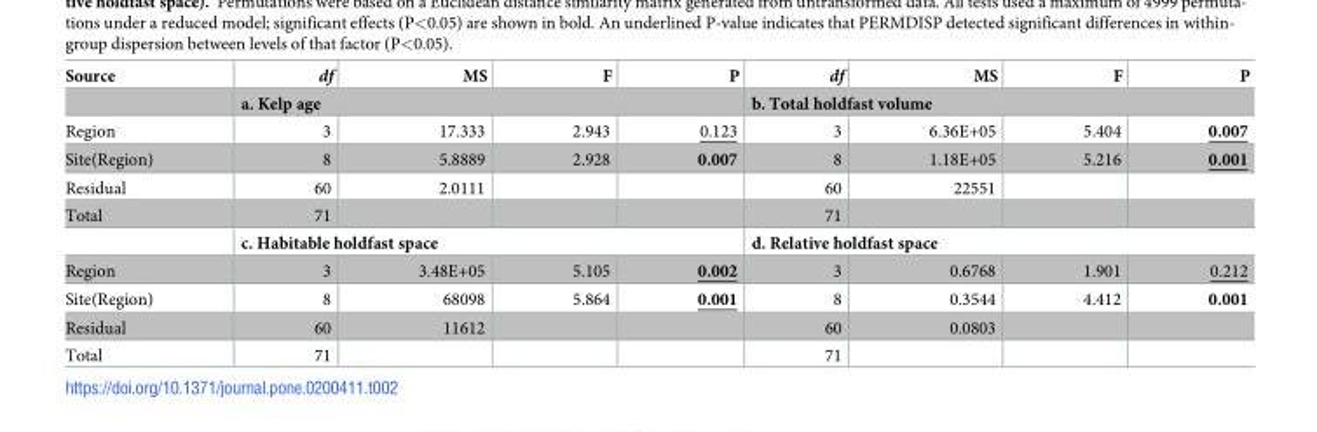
<table><thead><tr><td>Source</td><td>df</td><td>MS</td><td>F</td><td>P</td><td>df</td><td>MS</td><td>F</td><td>P</td></tr></thead><tbody><tr><td></td><td colspan="4">a. Kelp age</td><td colspan="4">b. Total holdfast volume</td></tr><tr><td>Region</td><td>3</td><td>17.333</td><td>2.943</td><td>0.123</td><td>3</td><td>6.36E+05</td><td>5.404</td><td>0.007</td></tr><tr><td>Site(Region)</td><td>8</td><td>5.8889</td><td>2.928</td><td>0.007</td><td>8</td><td>1.18E+05</td><td>5.216</td><td>0.001</td></tr><tr><td>Residual</td><td>60</td><td>2.0111</td><td></td><td></td><td>60</td><td>22551</td><td></td><td></td></tr><tr><td rowspan="2">Total</td><td>71</td><td></td><td></td><td></td><td>71</td><td></td><td></td><td></td></tr><tr><td colspan="4">c. Habitable holdfast space</td><td colspan="4">d. Relative holdfast space</td></tr><tr><td>Region</td><td>3</td><td>3.48E+05</td><td>5.105</td><td>0.002</td><td>3</td><td>0.6768</td><td>1.901</td><td>0.212</td></tr><tr><td>Site(Region)</td><td>8</td><td>68098</td><td>5.864</td><td>0.001</td><td>8</td><td>0.3544</td><td>4.412</td><td>0.001</td></tr><tr><td>Residual</td><td>60</td><td>11612</td><td></td><td></td><td>60</td><td>0.0803</td><td></td><td></td></tr><tr><td>Total</td><td>71</td><td></td><td></td><td></td><td>71</td><td></td><td></td><td></td></tr></tbody></table>